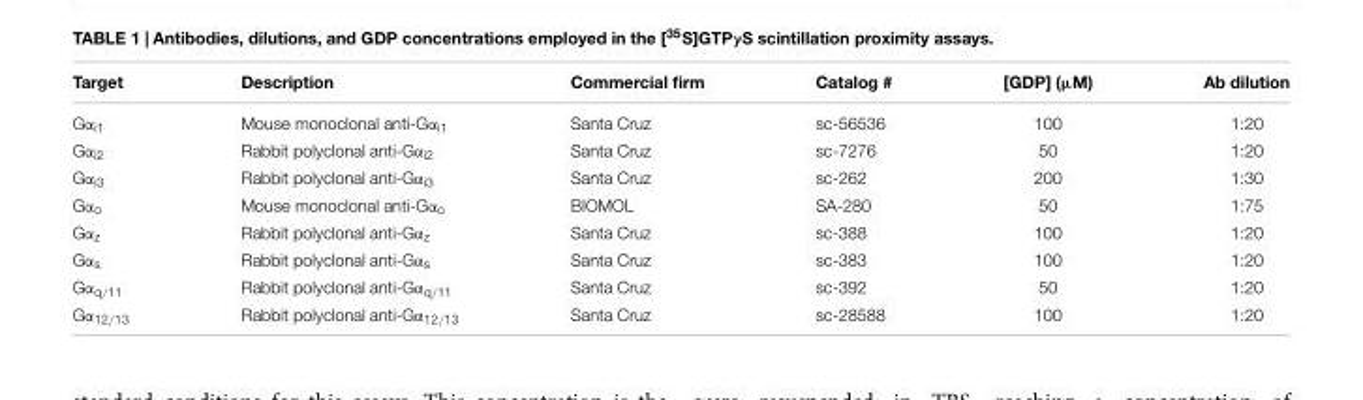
<table><thead><tr><td>Target</td><td>Description</td><td>Commercial firm</td><td>Catalog #</td><td>[GDP] (µM)</td><td>Ab dilution</td></tr></thead><tbody><tr><td>Gα<sub>i1</sub></td><td>Mouse monoclonal anti-Gα<sub>i1</sub></td><td>Santa Cruz</td><td>sc-56536</td><td>100</td><td>1:20</td></tr><tr><td>Gα<sub>i2</sub></td><td>Rabbit polyclonal anti-Gα<sub>i2</sub></td><td>Santa Cruz</td><td>sc-7276</td><td>50</td><td>1:20</td></tr><tr><td>Gα<sub>i3</sub></td><td>Rabbit polyclonal anti-Gα<sub>i3</sub></td><td>Santa Cruz</td><td>sc-262</td><td>200</td><td>1:30</td></tr><tr><td>Gα<sub>o</sub></td><td>Mouse monoclonal anti-Gα<sub>o</sub></td><td>BIOMOL</td><td>SA-280</td><td>50</td><td>1:75</td></tr><tr><td>Gα<sub>z</sub></td><td>Rabbit polyclonal anti-Gα<sub>z</sub></td><td>Santa Cruz</td><td>sc-388</td><td>100</td><td>1:20</td></tr><tr><td>Gα<sub>s</sub></td><td>Rabbit polyclonal anti-Gα<sub>s</sub></td><td>Santa Cruz</td><td>sc-383</td><td>100</td><td>1:20</td></tr><tr><td>Gα<sub>q/11</sub></td><td>Rabbit polyclonal anti-Gα<sub>q/11</sub></td><td>Santa Cruz</td><td>sc-392</td><td>50</td><td>1:20</td></tr><tr><td>Gα<sub>12/13</sub></td><td>Rabbit polyclonal anti-Gα<sub>12/13</sub></td><td>Santa Cruz</td><td>sc-28588</td><td>100</td><td>1:20</td></tr></tbody></table>